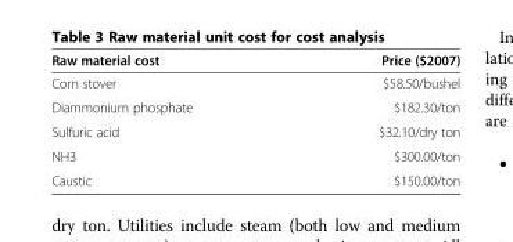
<table><thead><tr><td>Raw material cost</td><td>Price ($2007)</td></tr></thead><tbody><tr><td>Corn stover</td><td>$58.50/bushel</td></tr><tr><td>Diammonium phosphate</td><td>$182.30/ton</td></tr><tr><td>Sulfuric acid</td><td>$32.10/dry ton</td></tr><tr><td>NH3</td><td>$300.00/ton</td></tr><tr><td>Caustic</td><td>$150.00/ton</td></tr></tbody></table>